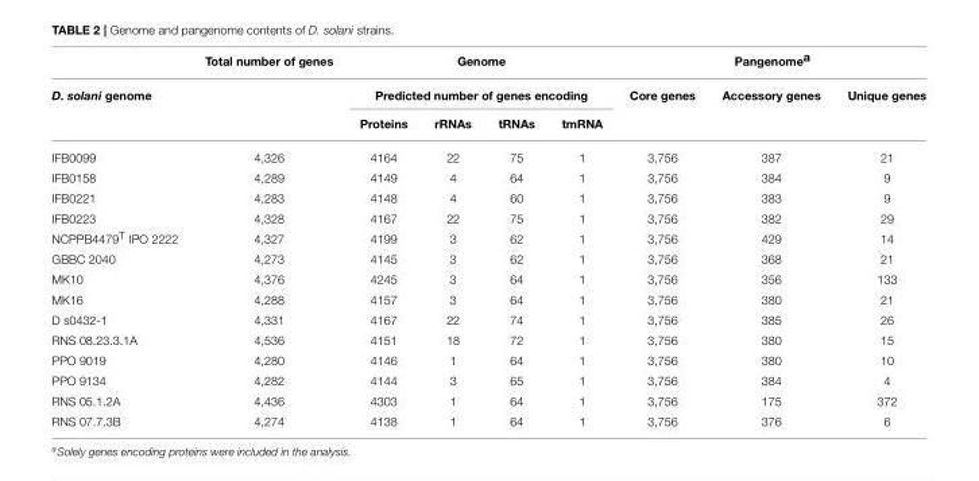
<table><thead><tr><td rowspan="3">D. solani genome</td><td rowspan="3">Total number of genes</td><td rowspan="2" colspan="4">Genome Predicted number of genes encoding</td><td colspan="3">Pangenome<sup>a</sup></td></tr><tr><td rowspan="2">Core genes</td><td rowspan="2">Accessory genes</td><td rowspan="2">Unique genes</td></tr><tr><td>Proteins</td><td>rRNAs</td><td>tRNAs</td><td>tmRNA</td></tr></thead><tbody><tr><td>IFB0099</td><td>4,326</td><td>4164</td><td>22</td><td>75</td><td>1</td><td>3,756</td><td>387</td><td>21</td></tr><tr><td>IFB0158</td><td>4,289</td><td>4149</td><td>4</td><td>64</td><td>1</td><td>3,756</td><td>384</td><td>9</td></tr><tr><td>IFB0221</td><td>4,283</td><td>4148</td><td>4</td><td>60</td><td>1</td><td>3,756</td><td>383</td><td>9</td></tr><tr><td>IFB0223</td><td>4,328</td><td>4167</td><td>22</td><td>75</td><td>1</td><td>3,756</td><td>382</td><td>29</td></tr><tr><td>NCPPB4479<sup>T</sup> IPO 2222</td><td>4,327</td><td>4199</td><td>3</td><td>62</td><td>1</td><td>3,756</td><td>429</td><td>14</td></tr><tr><td>GBBC 2040</td><td>4,273</td><td>4145</td><td>3</td><td>62</td><td>1</td><td>3,756</td><td>368</td><td>21</td></tr><tr><td>MK10</td><td>4,376</td><td>4245</td><td>3</td><td>64</td><td>1</td><td>3,756</td><td>356</td><td>133</td></tr><tr><td>MK16</td><td>4,288</td><td>4157</td><td>3</td><td>64</td><td>1</td><td>3,756</td><td>380</td><td>21</td></tr><tr><td>D s0432-1</td><td>4,331</td><td>4167</td><td>22</td><td>74</td><td>1</td><td>3,756</td><td>385</td><td>26</td></tr><tr><td>RNS 08.23.3.1A</td><td>4,536</td><td>4151</td><td>18</td><td>72</td><td>1</td><td>3,756</td><td>380</td><td>15</td></tr><tr><td>PPO 9019</td><td>4,280</td><td>4146</td><td>1</td><td>64</td><td>1</td><td>3,756</td><td>380</td><td>10</td></tr><tr><td>PPO 9134</td><td>4,282</td><td>4144</td><td>3</td><td>65</td><td>1</td><td>3,756</td><td>384</td><td>4</td></tr><tr><td>RNS 05.1.2A</td><td>4,436</td><td>4303</td><td>1</td><td>64</td><td>1</td><td>3,756</td><td>175</td><td>372</td></tr><tr><td>RNS 07.7.3B</td><td>4,274</td><td>4138</td><td>1</td><td>64</td><td>1</td><td>3,756</td><td>376</td><td>6</td></tr></tbody></table>